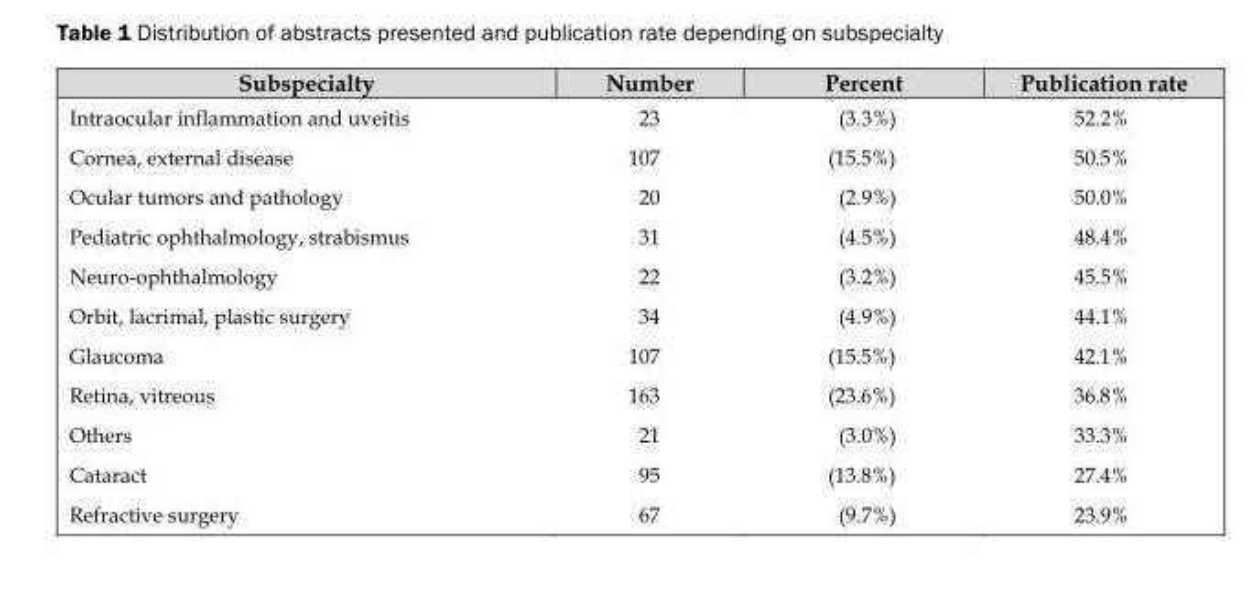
<table><thead><tr><td>Subspecialty</td><td>Number</td><td>Percent</td><td>Publication rate</td></tr></thead><tbody><tr><td>Intraocular inflammation and uveitis</td><td>23</td><td>(3.3%)</td><td>52.2%</td></tr><tr><td>Cornea, external disease</td><td>107</td><td>(15.5%)</td><td>50.5%</td></tr><tr><td>Ocular tumors and pathology</td><td>20</td><td>(2.9%)</td><td>50.0%</td></tr><tr><td>Pediatric ophthalmology, strabismus</td><td>31</td><td>(4.5%)</td><td>48.4%</td></tr><tr><td>Neuro-ophthalmology</td><td>22</td><td>(3.2%)</td><td>45.5%</td></tr><tr><td>Orbit, lacrimal, plastic surgery</td><td>34</td><td>(4.9%)</td><td>44.1%</td></tr><tr><td>Glaucoma</td><td>107</td><td>(15.5%)</td><td>42.1%</td></tr><tr><td>Retina, vitreous</td><td>163</td><td>(23.6%)</td><td>36.8%</td></tr><tr><td>Others</td><td>21</td><td>(3.0%)</td><td>33.3%</td></tr><tr><td>Cataract</td><td>95</td><td>(13.8%)</td><td>27.4%</td></tr><tr><td>Refractive surgery</td><td>67</td><td>(9.7%)</td><td>23.9%</td></tr></tbody></table>